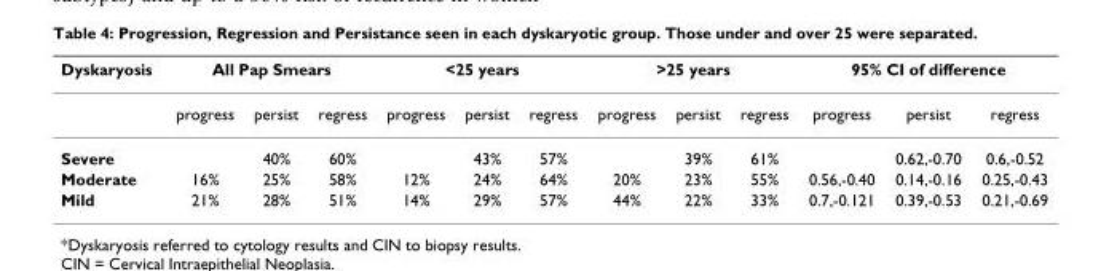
<table><thead><tr><td rowspan="2">Dyskaryosis</td><td colspan="3">All Pap Smears</td><td colspan="3">&lt;25 years</td><td colspan="3">&gt;25 years</td><td colspan="3">95% CI of difference</td></tr><tr><td>progress</td><td>persist</td><td>regress</td><td>progress</td><td>persist</td><td>regress</td><td>progress</td><td>persist</td><td>regress</td><td>progress</td><td>persist</td><td>regress</td></tr></thead><tbody><tr><td>Severe</td><td></td><td>40%</td><td>60%</td><td></td><td>43%</td><td>57%</td><td></td><td>39%</td><td>61%</td><td></td><td>0.62,-0.70</td><td>0.6,-0.52</td></tr><tr><td>Moderate</td><td>16%</td><td>25%</td><td>58%</td><td>12%</td><td>24%</td><td>64%</td><td>20%</td><td>23%</td><td>55%</td><td>0.56,-0.40</td><td>0.14,-0.16</td><td>0.25,-0.43</td></tr><tr><td>Mild</td><td>21%</td><td>28%</td><td>51%</td><td>14%</td><td>29%</td><td>57%</td><td>44%</td><td>22%</td><td>33%</td><td>0.7,-0.121</td><td>0.39,-0.53</td><td>0.21,-0.69</td></tr></tbody></table>